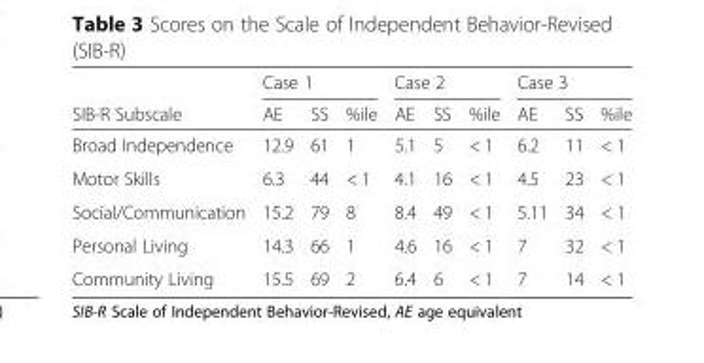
<table><thead><tr><td rowspan="2">SIB-R Subscale</td><td colspan="3">Case 1</td><td colspan="3">Case 2</td><td colspan="3">Case 3</td></tr><tr><td>AE</td><td>SS</td><td>%ile</td><td>AE</td><td>SS</td><td>%ile</td><td>AE</td><td>SS</td><td>%ile</td></tr></thead><tbody><tr><td>Broad Independence</td><td>12.9</td><td>61</td><td>1</td><td>5.1</td><td>5</td><td>&lt; 1</td><td>6.2</td><td>11</td><td>&lt; 1</td></tr><tr><td>Motor Skills</td><td>6.3</td><td>44</td><td>&lt; 1</td><td>4.1</td><td>16</td><td>&lt; 1</td><td>4.5</td><td>23</td><td>&lt; 1</td></tr><tr><td>Social/Communication</td><td>15.2</td><td>79</td><td>8</td><td>8.4</td><td>49</td><td>&lt; 1</td><td>5.11</td><td>34</td><td>&lt; 1</td></tr><tr><td>Personal Living</td><td>14.3</td><td>66</td><td>1</td><td>4.6</td><td>16</td><td>&lt; 1</td><td>7</td><td>32</td><td>&lt; 1</td></tr><tr><td>Community Living</td><td>15.5</td><td>69</td><td>2</td><td>6.4</td><td>6</td><td>&lt; 1</td><td>7</td><td>14</td><td>&lt; 1</td></tr></tbody></table>